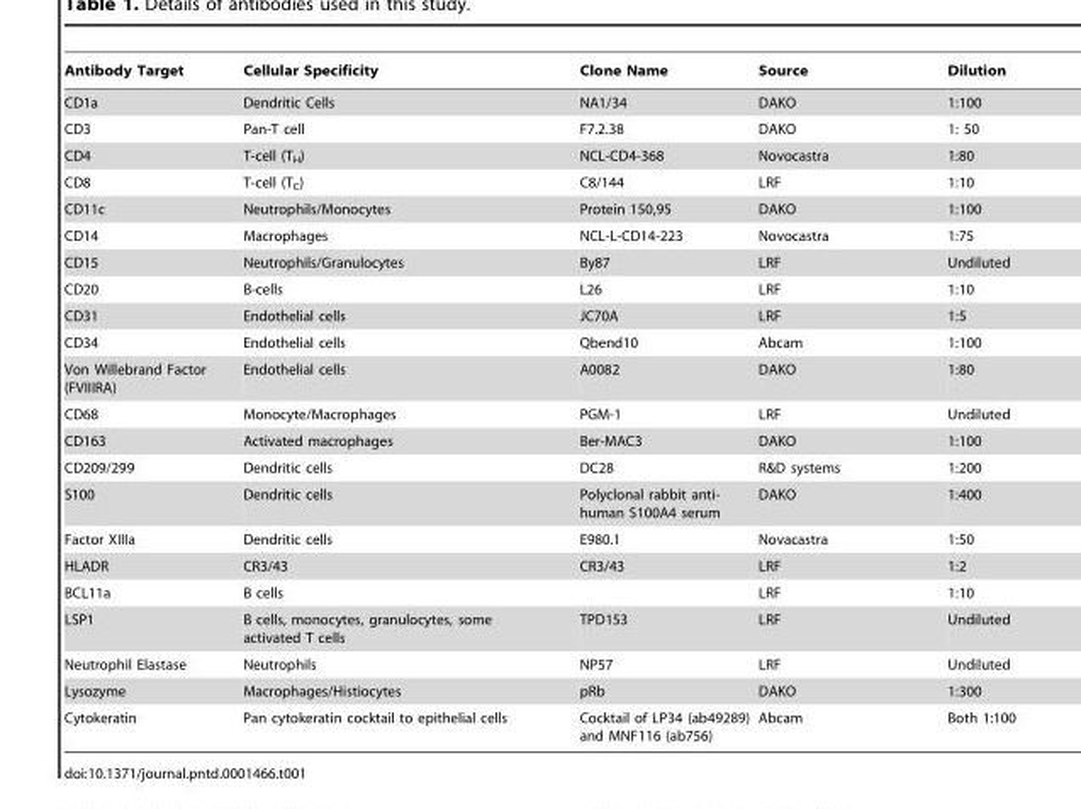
<table><thead><tr><td>Antibody Target</td><td>Cellular Specificity</td><td>Clone Name</td><td>Source</td><td>Dilution</td></tr></thead><tbody><tr><td>CD1a</td><td>Dendritic Cells</td><td>NA1/34</td><td>DAKO</td><td>1:100</td></tr><tr><td>CD3</td><td>Pan-T cell</td><td>F7.2.38</td><td>DAKO</td><td>1: 50</td></tr><tr><td>CD4</td><td>T-cell (T<sub>H</sub>)</td><td>NCL-CD4-368</td><td>Novocastra</td><td>1:80</td></tr><tr><td>CD8</td><td>T-cell (T<sub>C</sub>)</td><td>C8/144</td><td>LRF</td><td>1:10</td></tr><tr><td>CD11c</td><td>Neutrophils/Monocytes</td><td>Protein 150,95</td><td>DAKO</td><td>1:100</td></tr><tr><td>CD14</td><td>Macrophages</td><td>NCL-L-CD14-223</td><td>Novocastra</td><td>1:75</td></tr><tr><td>CD15</td><td>Neutrophils/Granulocytes</td><td>By87</td><td>LRF</td><td>Undiluted</td></tr><tr><td>CD20</td><td>B-cells</td><td>L26</td><td>LRF</td><td>1:10</td></tr><tr><td>CD31</td><td>Endothelial cells</td><td>JC70A</td><td>LRF</td><td>1:5</td></tr><tr><td>CD34</td><td>Endothelial cells</td><td>Qbend10</td><td>Abcam</td><td>1:100</td></tr><tr><td>Von Willebrand Factor (FVIIIRA)</td><td>Endothelial cells</td><td>A0082</td><td>DAKO</td><td>1:80</td></tr><tr><td>CD68</td><td>Monocyte/Macrophages</td><td>PGM-1</td><td>LRF</td><td>Undiluted</td></tr><tr><td>CD163</td><td>Activated macrophages</td><td>Ber-MAC3</td><td>DAKO</td><td>1:100</td></tr><tr><td>CD209/299</td><td>Dendritic cells</td><td>DC28</td><td>R&amp;D systems</td><td>1:200</td></tr><tr><td>S100</td><td>Dendritic cells</td><td>Polyclonal rabbit anti- human S100A4 serum</td><td>DAKO</td><td>1:400</td></tr><tr><td>Factor XIIIa</td><td>Dendritic cells</td><td>E980.1</td><td>Novacastra</td><td>1:50</td></tr><tr><td>HLADR</td><td>CR3/43</td><td>CR3/43</td><td>LRF</td><td>1:2</td></tr><tr><td>BCL11a</td><td>B cells</td><td></td><td>LRF</td><td>1:10</td></tr><tr><td>LSP1</td><td>B cells, monocytes, granulocytes, some activated T cells</td><td>TPD153</td><td>LRF</td><td>Undiluted</td></tr><tr><td>Neutrophil Elastase</td><td>Neutrophils</td><td>NP57</td><td>LRF</td><td>Undiluted</td></tr><tr><td>Lysozyme</td><td>Macrophages/Histiocytes</td><td>pRb</td><td>DAKO</td><td>1:300</td></tr><tr><td>Cytokeratin</td><td>Pan cytokeratin cocktail to epithelial cells</td><td>Cocktail of LP34 (ab49289) and MNF116 (ab756)</td><td>Abcam</td><td>Both 1:100</td></tr></tbody></table>